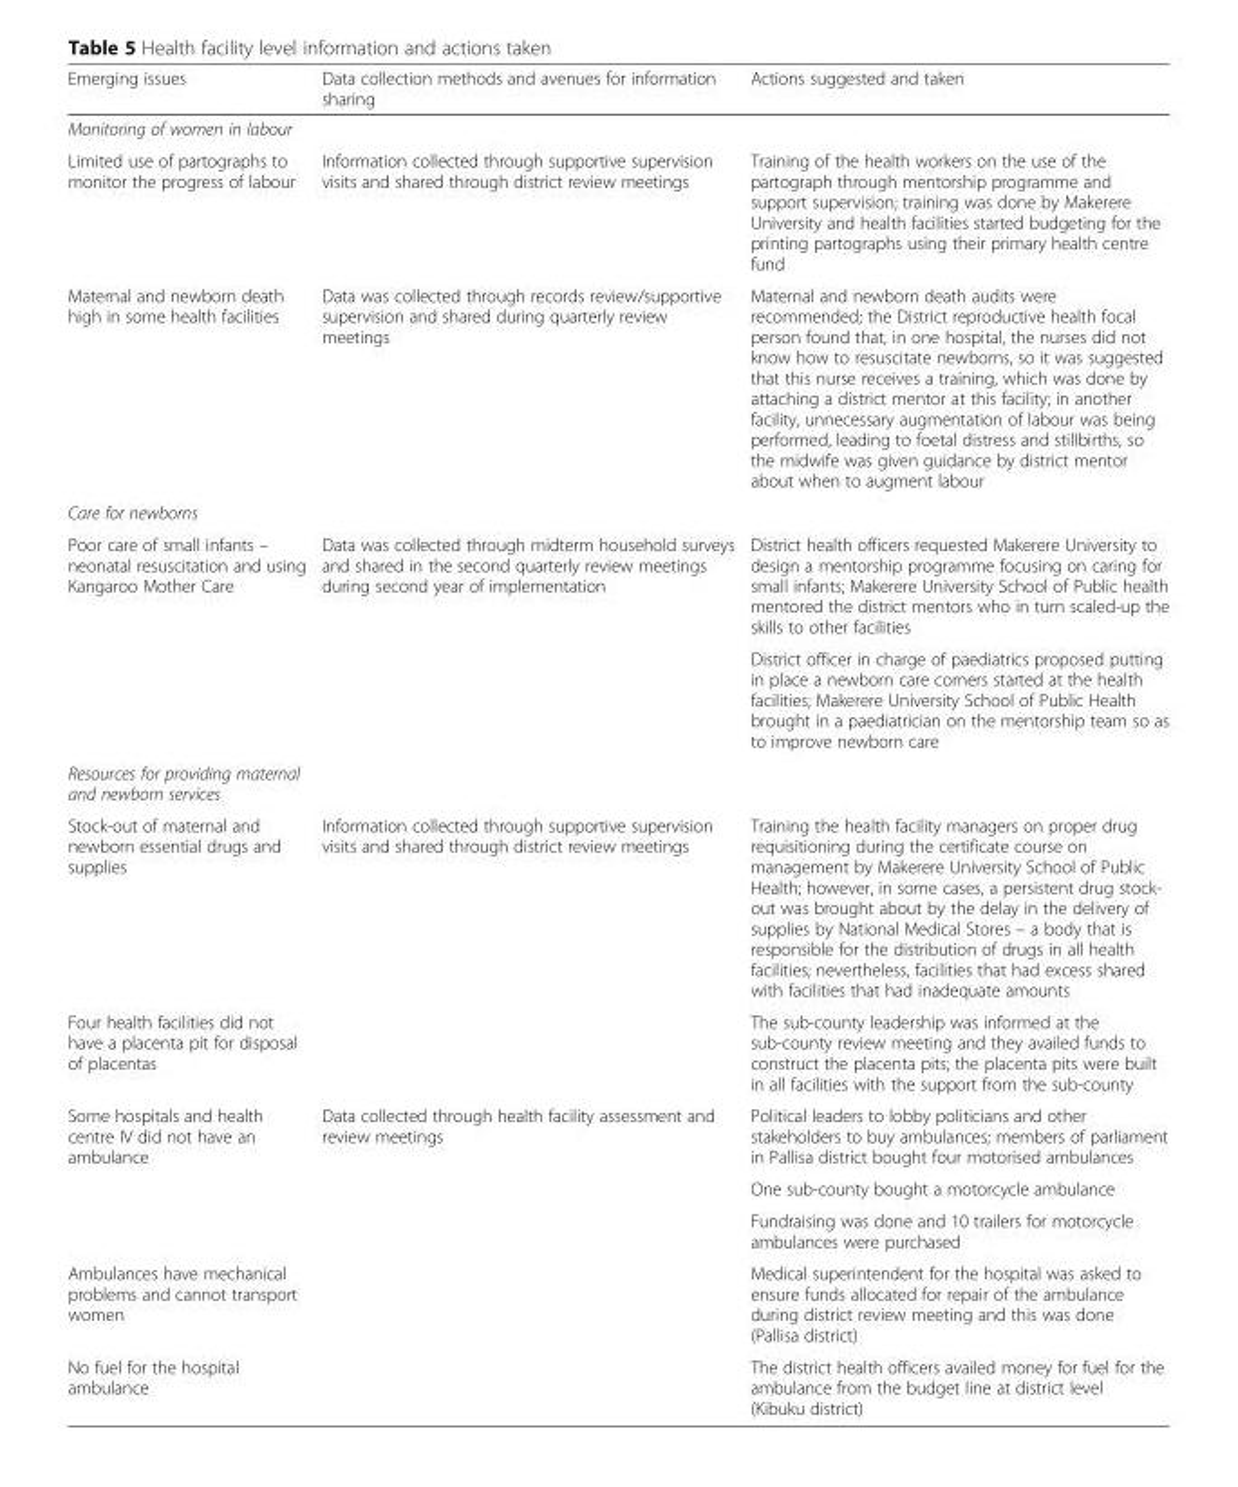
<table><thead><tr><td>Emerging issues</td><td>Data collection methods and avenues for information sharing</td><td>Actions suggested and taken</td></tr></thead><tbody><tr><td colspan="3">Monitoring of women in labour</td></tr><tr><td>Limited use of partographs to monitor the progress of labour</td><td>Information collected through supportive supervision visits and shared through district review meetings</td><td>Training of the health workers on the use of the partograph through mentorship programme and support supervision; training was done by Makerere University and health facilities started budgeting for the printing partographs using their primary health centre fund</td></tr><tr><td>Maternal and newborn death high in some health facilities</td><td>Data was collected through records review/supportive supervision and shared during quarterly review meetings</td><td>Maternal and newborn death audits were recommended; the District reproductive health focal person found that, in one hospital, the nurses did not know how to resuscitate newborns, so it was suggested that this nurse receives a training, which was done by attaching a district mentor at this facility; in another facility, unnecessary augmentation of labour was being performed, leading to foetal distress and stillbirths, so the midwife was given guidance by district mentor about when to augment labour</td></tr><tr><td colspan="3">Care for newborns</td></tr><tr><td rowspan="2">Poor care of small infants – neonatal resuscitation and using Kangaroo Mother Care</td><td rowspan="2">Data was collected through midterm household surveys and shared in the second quarterly review meetings during second year of implementation</td><td>District health officers requested Makerere University to design a mentorship programme focusing on caring for small infants; Makerere University School of Public health mentored the district mentors who in turn scaled-up the skills to other facilities</td></tr><tr><td>District officer in charge of paediatrics proposed putting in place a newborn care corners started at the health facilities; Makerere University School of Public Health brought in a paediatrician on the mentorship team so as to improve newborn care</td></tr><tr><td colspan="3">Resources for providing maternal and newborn services</td></tr><tr><td>Stock-out of maternal and newborn essential drugs and supplies</td><td rowspan="2">Information collected through supportive supervision visits and shared through district review meetings</td><td>Training the health facility managers on proper drug requisitioning during the certificate course on management by Makerere University School of Public Health; however, in some cases, a persistent drug stock- out was brought about by the delay in the delivery of supplies by National Medical Stores – a body that is responsible for the distribution of drugs in all health facilities; nevertheless, facilities that had excess shared with facilities that had inadequate amounts</td></tr><tr><td>Four health facilities did not have a placenta pit for disposal of placentas</td><td>The sub-county leadership was informed at the sub-county review meeting and they availed funds to construct the placenta pits; the placenta pits were built in all facilities with the support from the sub-county</td></tr><tr><td rowspan="3">Some hospitals and health centre IV did not have an ambulance</td><td rowspan="5">Data collected through health facility assessment and review meetings</td><td>Political leaders to lobby politicians and other stakeholders to buy ambulances; members of parliament in Pallisa district bought four motorised ambulances</td></tr><tr><td>One sub-county bought a motorcycle ambulance</td></tr><tr><td>Fundraising was done and 10 trailers for motorcycle ambulances were purchased</td></tr><tr><td>Ambulances have mechanical problems and cannot transport women</td><td>Medical superintendent for the hospital was asked to ensure funds allocated for repair of the ambulance during district review meeting and this was done (Pallisa district)</td></tr><tr><td>No fuel for the hospital ambulance</td><td>The district health officers availed money for fuel for the ambulance from the budget line at district level (Kibuku district)</td></tr></tbody></table>